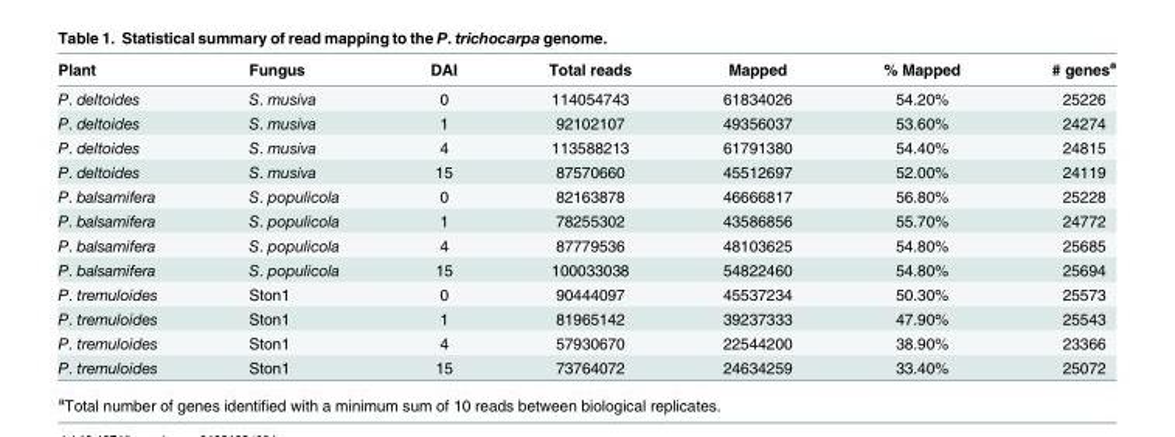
<table><thead><tr><td>Plant</td><td>Fungus</td><td>DAI</td><td>Total reads</td><td>Mapped</td><td>% Mapped</td><td># genes<sup>a</sup></td></tr></thead><tbody><tr><td>P. deltoides</td><td>S. musiva</td><td>0</td><td>114054743</td><td>61834026</td><td>54.20%</td><td>25226</td></tr><tr><td>P. deltoides</td><td>S. musiva</td><td>1</td><td>92102107</td><td>49356037</td><td>53.60%</td><td>24274</td></tr><tr><td>P. deltoides</td><td>S. musiva</td><td>4</td><td>113588213</td><td>61791380</td><td>54.40%</td><td>24815</td></tr><tr><td>P. deltoides</td><td>S. musiva</td><td>15</td><td>87570660</td><td>45512697</td><td>52.00%</td><td>24119</td></tr><tr><td>P. balsamifera</td><td>S. populicola</td><td>0</td><td>82163878</td><td>46666817</td><td>56.80%</td><td>25228</td></tr><tr><td>P. balsamifera</td><td>S. populicola</td><td>1</td><td>78255302</td><td>43586856</td><td>55.70%</td><td>24772</td></tr><tr><td>P. balsamifera</td><td>S. populicola</td><td>4</td><td>87779536</td><td>48103625</td><td>54.80%</td><td>25685</td></tr><tr><td>P. balsamifera</td><td>S. populicola</td><td>15</td><td>100033038</td><td>54822460</td><td>54.80%</td><td>25694</td></tr><tr><td>P. tremuloides</td><td>Ston1</td><td>0</td><td>90444097</td><td>45537234</td><td>50.30%</td><td>25573</td></tr><tr><td>P. tremuloides</td><td>Ston1</td><td>1</td><td>81965142</td><td>39237333</td><td>47.90%</td><td>25543</td></tr><tr><td>P. tremuloides</td><td>Ston1</td><td>4</td><td>57930670</td><td>22544200</td><td>38.90%</td><td>23366</td></tr><tr><td>P. tremuloides</td><td>Ston1</td><td>15</td><td>73764072</td><td>24634259</td><td>33.40%</td><td>25072</td></tr></tbody></table>